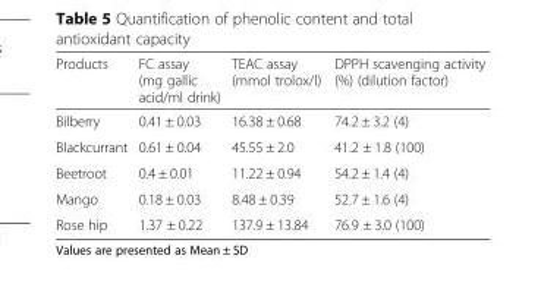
<table><thead><tr><td>Products</td><td>FC assay (mg gallic acid/ml drink)</td><td>TEAC assay (mmol trolox/l)</td><td>DPPH scavenging activity (%) (dilution factor)</td></tr></thead><tbody><tr><td>Bilberry</td><td>0.41 ± 0.03</td><td>16.38 ± 0.68</td><td>74.2 ± 3.2 (4)</td></tr><tr><td>Blackcurrant</td><td>0.61 ± 0.04</td><td>45.55 ± 2.0</td><td>41.2 ± 1.8 (100)</td></tr><tr><td>Beetroot</td><td>0.4 ± 0.01</td><td>11.22 ± 0.94</td><td>54.2 ± 1.4 (4)</td></tr><tr><td>Mango</td><td>0.18 ± 0.03</td><td>8.48 ± 0.39</td><td>52.7 ± 1.6 (4)</td></tr><tr><td>Rose hip</td><td>1.37 ± 0.22</td><td>137.9 ± 13.84</td><td>76.9 ± 3.0 (100)</td></tr></tbody></table>